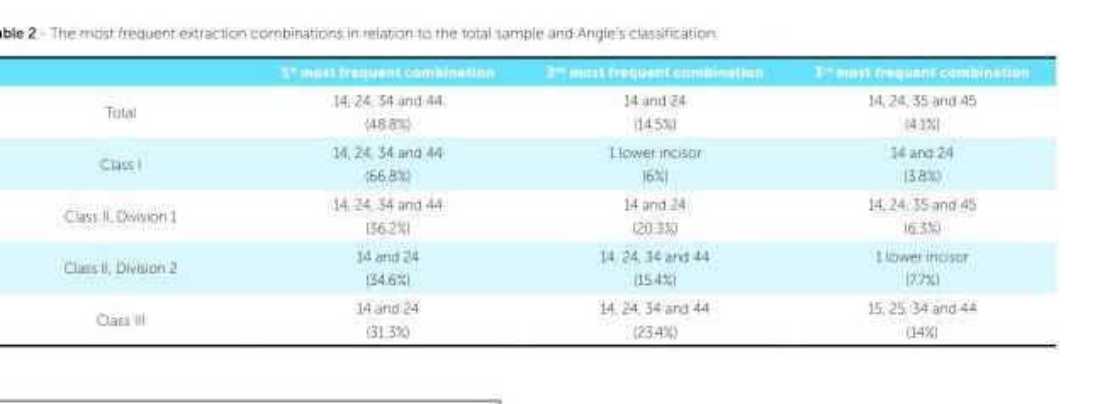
<table><thead><tr><td></td><td>1<sup>st</sup> most frequent combination</td><td>2<sup>nd</sup> most frequent combination</td><td>3<sup>rd</sup> most frequent combination</td></tr></thead><tbody><tr><td>Total</td><td>14, 24, 34 and 44 (48.8%)</td><td>14 and 24 (14.5%)</td><td>14, 24, 35 and 45 (4.1%)</td></tr><tr><td>Class I</td><td>14, 24, 34 and 44 (66.8%)</td><td>1 lower incisor (6%)</td><td>14 and 24 (3.8%)</td></tr><tr><td>Class II, Division 1</td><td>14, 24, 34 and 44 (36.2%)</td><td>14 and 24 (20.3%)</td><td>14, 24, 35 and 45 (6.3%)</td></tr><tr><td>Class II, Division 2</td><td>14 and 24 (34.6%)</td><td>14, 24, 34 and 44 (15.4%)</td><td>1 lower incisor (7.7%)</td></tr><tr><td>Class III</td><td>14 and 24 (31.3%)</td><td>14, 24, 34 and 44 (23.4%)</td><td>15, 25, 34 and 44 (14%)</td></tr></tbody></table>